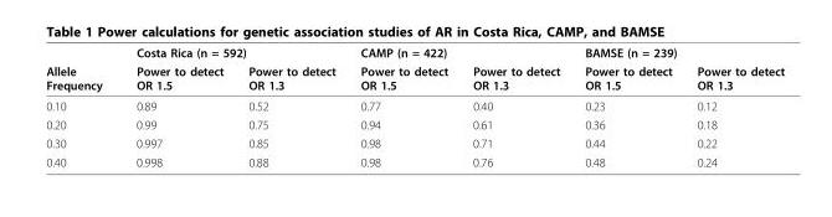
<table><thead><tr><td rowspan="2">Allele Frequency</td><td colspan="2">Costa Rica (n = 592)</td><td colspan="2">CAMP (n = 422)</td><td colspan="2">BAMSE (n = 239)</td></tr><tr><td>Power to detect OR 1.5</td><td>Power to detect OR 1.3</td><td>Power to detect OR 1.5</td><td>Power to detect OR 1.3</td><td>Power to detect OR 1.5</td><td>Power to detect OR 1.3</td></tr></thead><tbody><tr><td>0.10</td><td>0.89</td><td>0.52</td><td>0.77</td><td>0.40</td><td>0.23</td><td>0.12</td></tr><tr><td>0.20</td><td>0.99</td><td>0.75</td><td>0.94</td><td>0.61</td><td>0.36</td><td>0.18</td></tr><tr><td>0.30</td><td>0.997</td><td>0.85</td><td>0.98</td><td>0.71</td><td>0.44</td><td>0.22</td></tr><tr><td>0.40</td><td>0.998</td><td>0.88</td><td>0.98</td><td>0.76</td><td>0.48</td><td>0.24</td></tr></tbody></table>